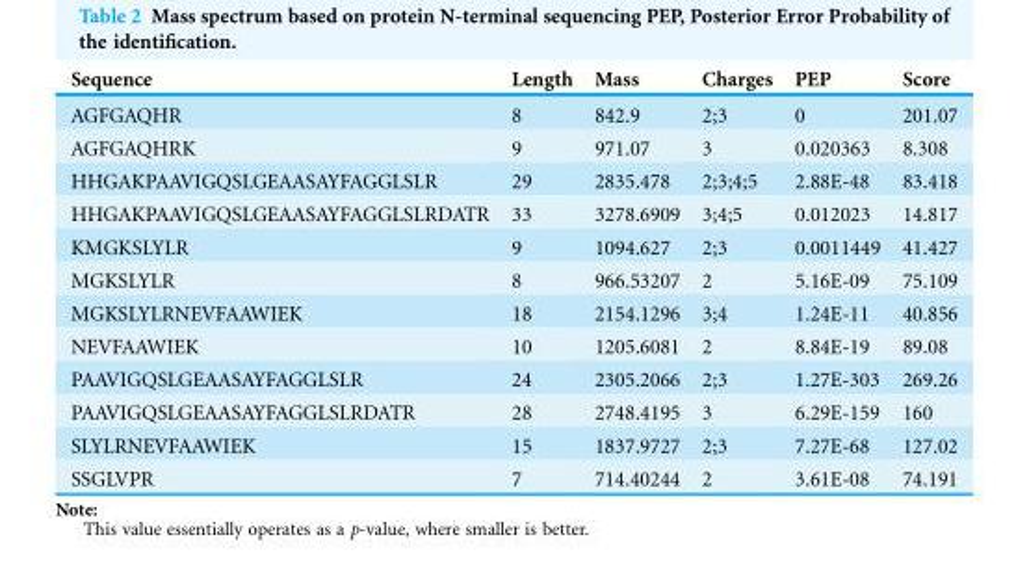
<table><thead><tr><td>Sequence</td><td>Length</td><td>Mass</td><td>Charges</td><td>PEP</td><td>Score</td></tr></thead><tbody><tr><td>AGFGAQHR</td><td>8</td><td>842.9</td><td>2;3</td><td>0</td><td>201.07</td></tr><tr><td>AGFGAQHRK</td><td>9</td><td>971.07</td><td>3</td><td>0.020363</td><td>8.308</td></tr><tr><td>HHGAKPAAVIGQSLGEAASAYFAGGLSLR</td><td>29</td><td>2835.478</td><td>2;3;4;5</td><td>2.88E-48</td><td>83.418</td></tr><tr><td>HHGAKPAAVIGQSLGEAASAYFAGGLSLRDATR</td><td>33</td><td>3278.6909</td><td>3;4;5</td><td>0.012023</td><td>14.817</td></tr><tr><td>KMGKSLYLR</td><td>9</td><td>1094.627</td><td>2;3</td><td>0.0011449</td><td>41.427</td></tr><tr><td>MGKSLYLR</td><td>8</td><td>966.53207</td><td>2</td><td>5.16E-09</td><td>75.109</td></tr><tr><td>MGKSLYLRNEVFAAWIEK</td><td>18</td><td>2154.1296</td><td>3;4</td><td>1.24E-11</td><td>40.856</td></tr><tr><td>NEVFAAWIEK</td><td>10</td><td>1205.6081</td><td>2</td><td>8.84E-19</td><td>89.08</td></tr><tr><td>PAAVIGQSLGEAASAYFAGGLSLR</td><td>24</td><td>2305.2066</td><td>2;3</td><td>1.27E-303</td><td>269.26</td></tr><tr><td>PAAVIGQSLGEAASAYFAGGLSLRDATR</td><td>28</td><td>2748.4195</td><td>3</td><td>6.29E-159</td><td>160</td></tr><tr><td>SLYLRNEVFAAWIEK</td><td>15</td><td>1837.9727</td><td>2;3</td><td>7.27E-68</td><td>127.02</td></tr><tr><td>SSGLVPR</td><td>7</td><td>714.40244</td><td>2</td><td>3.61E-08</td><td>74.191</td></tr></tbody></table>